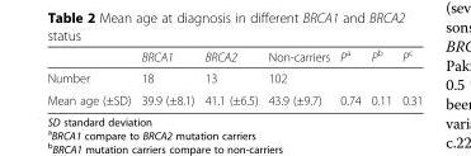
<table><thead><tr><td></td><td>BRCA1</td><td>BRCA2</td><td>Non-carriers</td><td>P<sup>a</sup></td><td>P<sup>b</sup></td><td>P<sup>c</sup></td></tr></thead><tbody><tr><td>Number</td><td>18</td><td>13</td><td>102</td><td></td><td></td><td></td></tr><tr><td>Mean age (±SD)</td><td>39.9 (±8.1)</td><td>41.1 (±6.5)</td><td>43.9 (±9.7)</td><td>0.74</td><td>0.11</td><td>0.31</td></tr></tbody></table>